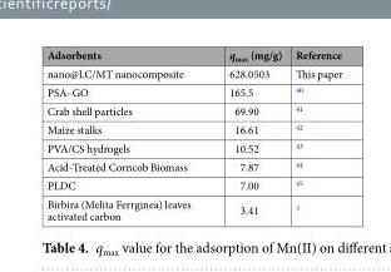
<table><thead><tr><td>Adsorbents</td><td>q<sub>max</sub> (mg/g)</td><td>Reference</td></tr></thead><tbody><tr><td>nano@LC/MT nanocomposite</td><td>628.0503</td><td>This paper</td></tr><tr><td>PSA–GO</td><td>165.5</td><td><sup>40</sup></td></tr><tr><td>Crab shell particles</td><td>69.90</td><td><sup>41</sup></td></tr><tr><td>Maize stalks</td><td>16.61</td><td><sup>42</sup></td></tr><tr><td>PVA/CS hydrogels</td><td>10.52</td><td><sup>43</sup></td></tr><tr><td>Acid-Treated Corncob Biomass</td><td>7.87</td><td><sup>44</sup></td></tr><tr><td>PLDC</td><td>7.00</td><td><sup>45</sup></td></tr><tr><td>Birbira (Melita Ferrginea) leaves activated carbon</td><td>3.41</td><td><sup>3</sup></td></tr></tbody></table>